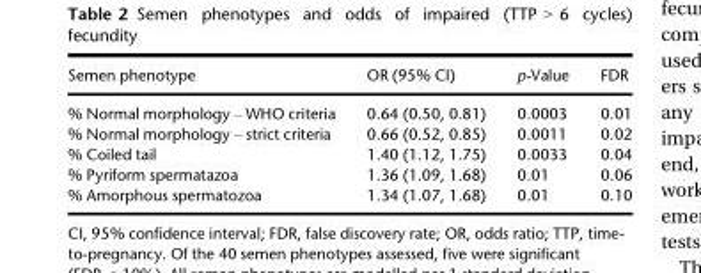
<table><thead><tr><td>Semen phenotype</td><td>OR (95% CI)</td><td>p-Value</td><td>FDR</td></tr></thead><tbody><tr><td>% Normal morphology – WHO criteria</td><td>0.64 (0.50, 0.81)</td><td>0.0003</td><td>0.01</td></tr><tr><td>% Normal morphology – strict criteria</td><td>0.66 (0.52, 0.85)</td><td>0.0011</td><td>0.02</td></tr><tr><td>% Coiled tail</td><td>1.40 (1.12, 1.75)</td><td>0.0033</td><td>0.04</td></tr><tr><td>% Pyriform spermatazoa</td><td>1.36 (1.09, 1.68)</td><td>0.01</td><td>0.06</td></tr><tr><td>% Amorphous spermatozoa</td><td>1.34 (1.07, 1.68)</td><td>0.01</td><td>0.10</td></tr></tbody></table>